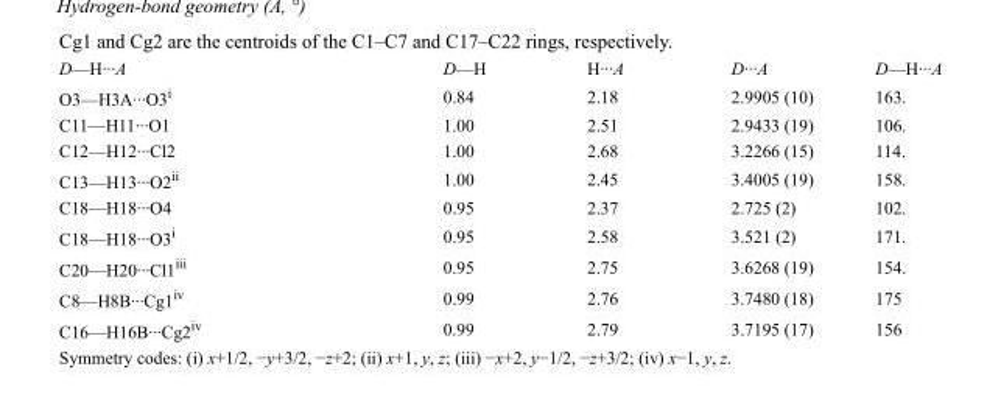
<table><tbody><tr><td>D—H···A</td><td>D—H</td><td>H···A</td><td>D···A</td><td>D—H···A</td></tr><tr><td>O3—H3A···O3<sup>i</sup></td><td>0.84</td><td>2.18</td><td>2.9905 (10)</td><td>163.</td></tr><tr><td>C11—H11···O1</td><td>1.00</td><td>2.51</td><td>2.9433 (19)</td><td>106.</td></tr><tr><td>C12—H12···Cl2</td><td>1.00</td><td>2.68</td><td>3.2266 (15)</td><td>114.</td></tr><tr><td>C13—H13···O2<sup>ii</sup></td><td>1.00</td><td>2.45</td><td>3.4005 (19)</td><td>158.</td></tr><tr><td>C18—H18···O4</td><td>0.95</td><td>2.37</td><td>2.725 (2)</td><td>102.</td></tr><tr><td>C18—H18···O3<sup>i</sup></td><td>0.95</td><td>2.58</td><td>3.521 (2)</td><td>171.</td></tr><tr><td>C20—H20···Cl1<sup>iii</sup></td><td>0.95</td><td>2.75</td><td>3.6268 (19)</td><td>154.</td></tr><tr><td>C8—H8B···Cg1<sup>iv</sup></td><td>0.99</td><td>2.76</td><td>3.7480 (18)</td><td>175</td></tr><tr><td>C16—H16B···Cg2<sup>iv</sup></td><td>0.99</td><td>2.79</td><td>3.7195 (17)</td><td>156</td></tr></tbody></table>